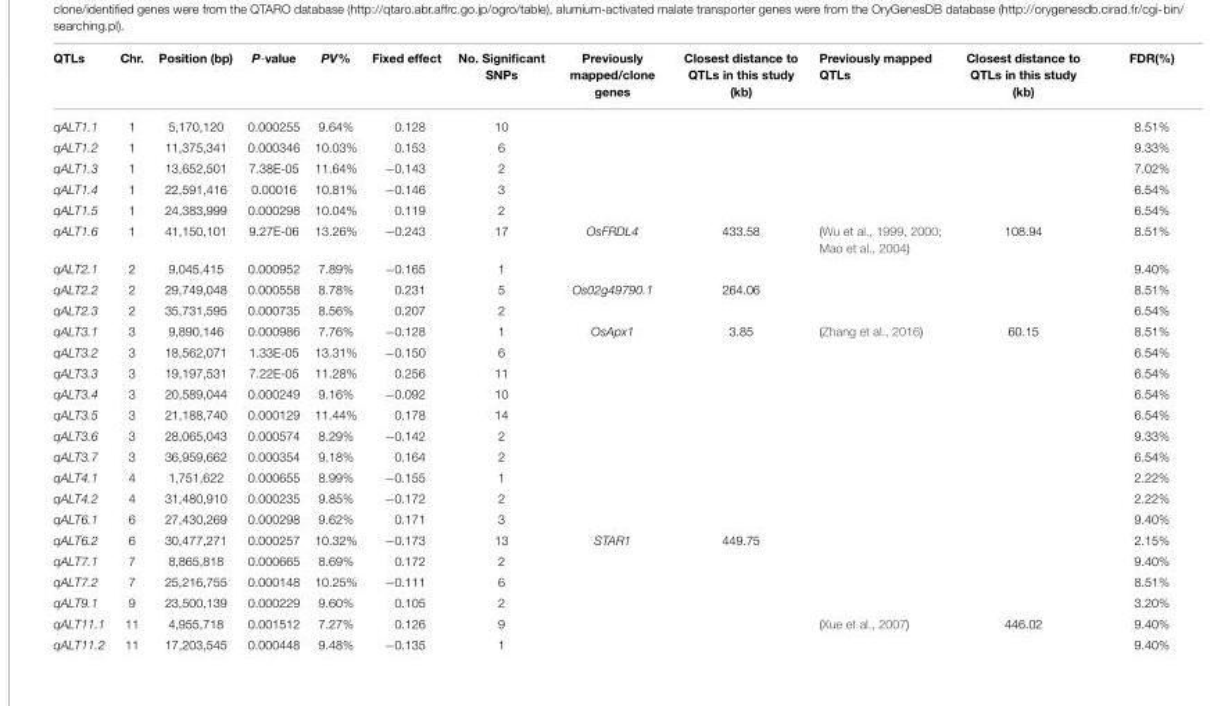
<table><thead><tr><td>QTLs</td><td>Chr.</td><td>Position (bp)</td><td>P-value</td><td>PV%</td><td>Fixed effect</td><td>No. Significant SNPs</td><td>Previously mapped/clone genes</td><td>Closest distance to QTLs in this study (kb)</td><td>Previously mapped QTLs</td><td>Closest distance to QTLs in this study (kb)</td><td>FDR(%)</td></tr></thead><tbody><tr><td>qALT1.1</td><td>1</td><td>5,170,120</td><td>0.000255</td><td>9.64%</td><td>0.128</td><td>10</td><td></td><td></td><td></td><td></td><td>8.51%</td></tr><tr><td>qALT1.2</td><td>1</td><td>11,375,341</td><td>0.000346</td><td>10.03%</td><td>0.153</td><td>6</td><td></td><td></td><td></td><td></td><td>9.33%</td></tr><tr><td>qALT1.3</td><td>1</td><td>13,652,501</td><td>7.38E-05</td><td>11.64%</td><td>−0.143</td><td>2</td><td></td><td></td><td></td><td></td><td>7.02%</td></tr><tr><td>qALT1.4</td><td>1</td><td>22,591,416</td><td>0.00016</td><td>10.81%</td><td>−0.146</td><td>3</td><td></td><td></td><td></td><td></td><td>6.54%</td></tr><tr><td>qALT1.5</td><td>1</td><td>24,383,999</td><td>0.000298</td><td>10.04%</td><td>0.119</td><td>2</td><td></td><td></td><td></td><td></td><td>6.54%</td></tr><tr><td>qALT1.6</td><td>1</td><td>41,150,101</td><td>9.27E-06</td><td>13.26%</td><td>−0.243</td><td>17</td><td>OsFRDL4</td><td>433.58</td><td>(Wu et al., 1999, 2000; Mao et al., 2004)</td><td>108.94</td><td>8.51%</td></tr><tr><td>qALT2.1</td><td>2</td><td>9,045,415</td><td>0.000952</td><td>7.89%</td><td>−0.165</td><td>1</td><td></td><td></td><td></td><td></td><td>9.40%</td></tr><tr><td>qALT2.2</td><td>2</td><td>29,749,048</td><td>0.000558</td><td>8.78%</td><td>0.231</td><td>5</td><td>Os02g49790.1</td><td>264.06</td><td></td><td></td><td>8.51%</td></tr><tr><td>qALT2.3</td><td>2</td><td>35,731,595</td><td>0.000735</td><td>8.56%</td><td>0.207</td><td>2</td><td></td><td></td><td></td><td></td><td>6.54%</td></tr><tr><td>qALT3.1</td><td>3</td><td>9,890,146</td><td>0.000986</td><td>7.76%</td><td>−0.128</td><td>1</td><td>OsApx1</td><td>3.85</td><td>(Zhang et al., 2016)</td><td>60.15</td><td>8.51%</td></tr><tr><td>qALT3.2</td><td>3</td><td>18,562,071</td><td>1.33E-05</td><td>13.31%</td><td>−0.150</td><td>6</td><td></td><td></td><td></td><td></td><td>6.54%</td></tr><tr><td>qALT3.3</td><td>3</td><td>19,197,531</td><td>7.22E-05</td><td>11.28%</td><td>0.256</td><td>11</td><td></td><td></td><td></td><td></td><td>6.54%</td></tr><tr><td>qALT3.4</td><td>3</td><td>20,589,044</td><td>0.000249</td><td>9.16%</td><td>−0.092</td><td>10</td><td></td><td></td><td></td><td></td><td>6.54%</td></tr><tr><td>qALT3.5</td><td>3</td><td>21,188,740</td><td>0.000129</td><td>11.44%</td><td>0.178</td><td>14</td><td></td><td></td><td></td><td></td><td>6.54%</td></tr><tr><td>qALT3.6</td><td>3</td><td>28,065,043</td><td>0.000574</td><td>8.29%</td><td>−0.142</td><td>2</td><td></td><td></td><td></td><td></td><td>9.33%</td></tr><tr><td>qALT3.7</td><td>3</td><td>36,959,662</td><td>0.000354</td><td>9.18%</td><td>0.164</td><td>2</td><td></td><td></td><td></td><td></td><td>6.54%</td></tr><tr><td>qALT4.1</td><td>4</td><td>1,751,622</td><td>0.000655</td><td>8.99%</td><td>−0.155</td><td>1</td><td></td><td></td><td></td><td></td><td>2.22%</td></tr><tr><td>qALT4.2</td><td>4</td><td>31,480,910</td><td>0.000235</td><td>9.85%</td><td>−0.172</td><td>2</td><td></td><td></td><td></td><td></td><td>2.22%</td></tr><tr><td>qALT6.1</td><td>6</td><td>27,430,269</td><td>0.000298</td><td>9.62%</td><td>0.171</td><td>3</td><td></td><td></td><td></td><td></td><td>9.40%</td></tr><tr><td>qALT6.2</td><td>6</td><td>30,477,271</td><td>0.000257</td><td>10.32%</td><td>−0.173</td><td>13</td><td>STAR1</td><td>449.75</td><td></td><td></td><td>2.15%</td></tr><tr><td>qALT7.1</td><td>7</td><td>8,865,818</td><td>0.000665</td><td>8.69%</td><td>0.172</td><td>2</td><td></td><td></td><td></td><td></td><td>9.40%</td></tr><tr><td>qALT7.2</td><td>7</td><td>25,216,755</td><td>0.000148</td><td>10.25%</td><td>−0.111</td><td>6</td><td></td><td></td><td></td><td></td><td>8.51%</td></tr><tr><td>qALT9.1</td><td>9</td><td>23,500,139</td><td>0.000229</td><td>9.60%</td><td>0.105</td><td>2</td><td></td><td></td><td></td><td></td><td>3.20%</td></tr><tr><td>qALT11.1</td><td>11</td><td>4,955,718</td><td>0.001512</td><td>7.27%</td><td>0.126</td><td>9</td><td></td><td></td><td>(Xue et al., 2007)</td><td>446.02</td><td>9.40%</td></tr><tr><td>qALT11.2</td><td>11</td><td>17,203,545</td><td>0.000448</td><td>9.48%</td><td>−0.135</td><td>1</td><td></td><td></td><td></td><td></td><td>9.40%</td></tr></tbody></table>